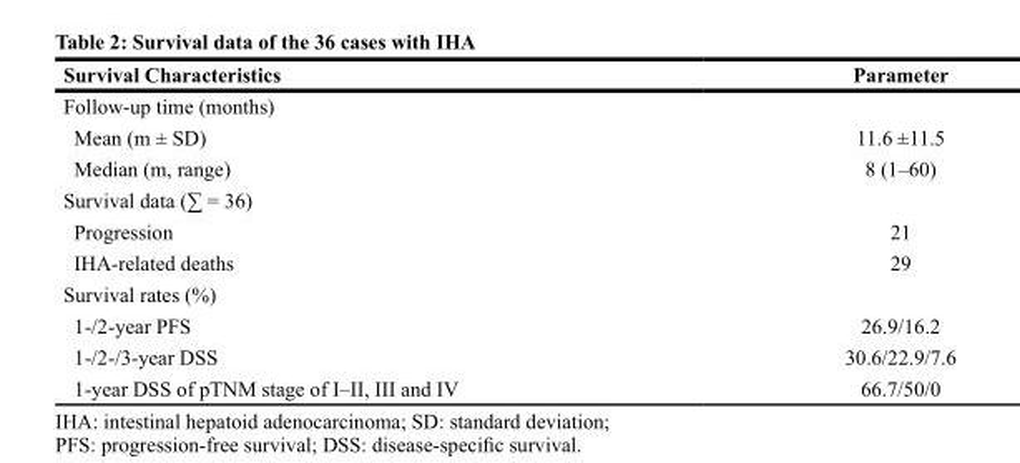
<table><thead><tr><td>Survival Characteristics</td><td>Parameter</td></tr></thead><tbody><tr><td colspan="2">Follow-up time (months)</td></tr><tr><td>Mean (m ± SD)</td><td>11.6 ±11.5</td></tr><tr><td>Median (m, range)</td><td>8 (1–60)</td></tr><tr><td colspan="2">Survival data (∑ = 36)</td></tr><tr><td>Progression</td><td>21</td></tr><tr><td>IHA-related deaths</td><td>29</td></tr><tr><td colspan="2">Survival rates (%)</td></tr><tr><td>1-/2-year PFS</td><td>26.9/16.2</td></tr><tr><td>1-/2-/3-year DSS</td><td>30.6/22.9/7.6</td></tr><tr><td>1-year DSS of pTNM stage of I–II, III and IV</td><td>66.7/50/0</td></tr></tbody></table>